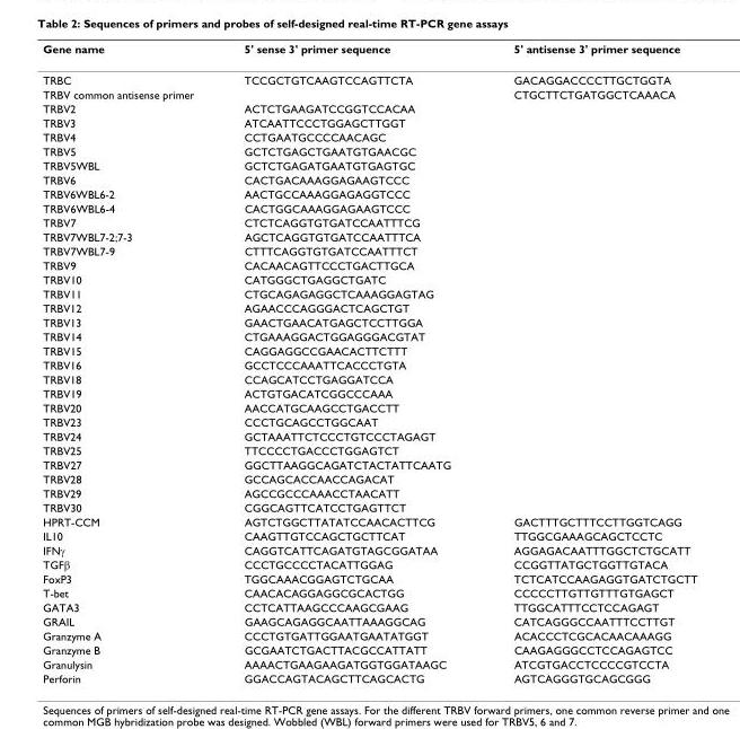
<table><thead><tr><td>Gene name</td><td>5&#x27; sense 3&#x27; primer sequence</td><td>5&#x27; antisense 3&#x27; primer sequence</td></tr></thead><tbody><tr><td>TRBC</td><td>TCCGCTGTCAAGTCCAGTTCTA</td><td>GACAGGACCCCTTGCTGGTA</td></tr><tr><td>TRBV common antisense primer</td><td></td><td>CTGCTTCTGATGGCTCAAACA</td></tr><tr><td>TRBV2</td><td>ACTCTGAAGATCCGGTCCACAA</td><td></td></tr><tr><td>TRBV3</td><td>ATCAATTCCCTGGAGCTTGGT</td><td></td></tr><tr><td>TRBV4</td><td>CCTGAATGCCCCAACAGC</td><td></td></tr><tr><td>TRBV5</td><td>GCTCTGAGCTGAATGTGAACGC</td><td></td></tr><tr><td>TRBV5WBL</td><td>GCTCTGAGATGAATGTGAGTGC</td><td></td></tr><tr><td>TRBV6</td><td>CACTGACAAAGGAGAAGTCCC</td><td></td></tr><tr><td>TRBV6WBL6-2</td><td>AACTGCCAAAGGAGAGGTCCC</td><td></td></tr><tr><td>TRBV6WBL6-4</td><td>CACTGGCAAAGGAGAAGTCCC</td><td></td></tr><tr><td>TRBV7</td><td>CTCTCAGGTGTGATCCAATTTCG</td><td></td></tr><tr><td>TRBV7WBL7-2;7-3</td><td>AGCTCAGGTGTGATCCAATTTCA</td><td></td></tr><tr><td>TRBV7WBL7-9</td><td>CTTTCAGGTGTGATCCAATTTCT</td><td></td></tr><tr><td>TRBV9</td><td>CACAACAGTTCCCTGACTTGCA</td><td></td></tr><tr><td>TRBV10</td><td>CATGGGCTGAGGCTGATC</td><td></td></tr><tr><td>TRBV11</td><td>CTGCAGAGAGGCTCAAAGGAGTAG</td><td></td></tr><tr><td>TRBV12</td><td>AGAACCCAGGGACTCAGCTGT</td><td></td></tr><tr><td>TRBV13</td><td>GAACTGAACATGAGCTCCTTGGA</td><td></td></tr><tr><td>TRBV14</td><td>CTGAAAGGACTGGAGGGACGTAT</td><td></td></tr><tr><td>TRBV15</td><td>CAGGAGGCCGAACACTTCTTT</td><td></td></tr><tr><td>TRBV16</td><td>GCCTCCCAAATTCACCCTGTA</td><td></td></tr><tr><td>TRBV18</td><td>CCAGCATCCTGAGGATCCA</td><td></td></tr><tr><td>TRBV19</td><td>ACTGTGACATCGGCCCAAA</td><td></td></tr><tr><td>TRBV20</td><td>AACCATGCAAGCCTGACCTT</td><td></td></tr><tr><td>TRBV23</td><td>CCCTGCAGCCTGGCAAT</td><td></td></tr><tr><td>TRBV24</td><td>GCTAAATTCTCCCTGTCCCTAGAGT</td><td></td></tr><tr><td>TRBV25</td><td>TTCCCCTGACCCTGGAGTCT</td><td></td></tr><tr><td>TRBV27</td><td>GGCTTAAGGCAGATCTACTATTCAATG</td><td></td></tr><tr><td>TRBV28</td><td>GCCAGCACCAACCAGACAT</td><td></td></tr><tr><td>TRBV29</td><td>AGCCGCCCAAACCTAACATT</td><td></td></tr><tr><td>TRBV30</td><td>CGGCAGTTCATCCTGAGTTCT</td><td></td></tr><tr><td>HPRT-CCM</td><td>AGTCTGGCTTATATCCAACACTTCG</td><td>GACTTTGCTTTCCTTGGTCAGG</td></tr><tr><td>IL10</td><td>CAAGTTGTCCAGCTGCTTCAT</td><td>TTGGCGAAAGCAGCTCCTC</td></tr><tr><td>IFNγ</td><td>CAGGTCATTCAGATGTAGCGGATAA</td><td>AGGAGACAATTTGGCTCTGCATT</td></tr><tr><td>TGFβ</td><td>CCCTGCCCCTACATTGGAG</td><td>CCGGTTATGCTGGTTGTACA</td></tr><tr><td>FoxP3</td><td>TGGCAAACGGAGTCTGCAA</td><td>TCTCATCCAAGAGGTGATCTGCTT</td></tr><tr><td>T-bet</td><td>CAACACAGGAGGCGCACTGG</td><td>CCCCCTTGTTGTTTGTGAGCT</td></tr><tr><td>GATA3</td><td>CCTCATTAAGCCCAAGCGAAG</td><td>TTGGCATTTCCTCCAGAGT</td></tr><tr><td>GRAIL</td><td>GAAGCAGAGGCAATTAAAGGCAG</td><td>CATCAGGGCCAATTTCCTTGT</td></tr><tr><td>Granzyme A</td><td>CCCTGTGATTGGAATGAATATGGT</td><td>ACACCCTCGCACAACAAAGG</td></tr><tr><td>Granzyme B</td><td>GCGAATCTGACTTACGCCATTATT</td><td>CAAGAGGGCCTCCAGAGTCC</td></tr><tr><td>Granulysin</td><td>AAAACTGAAGAAGATGGTGGATAAGC</td><td>ATCGTGACCTCCCCGTCCTA</td></tr><tr><td>Perforin</td><td>GGACCAGTACAGCTTCAGCACTG</td><td>AGTCAGGGTGCAGCGGG</td></tr></tbody></table>